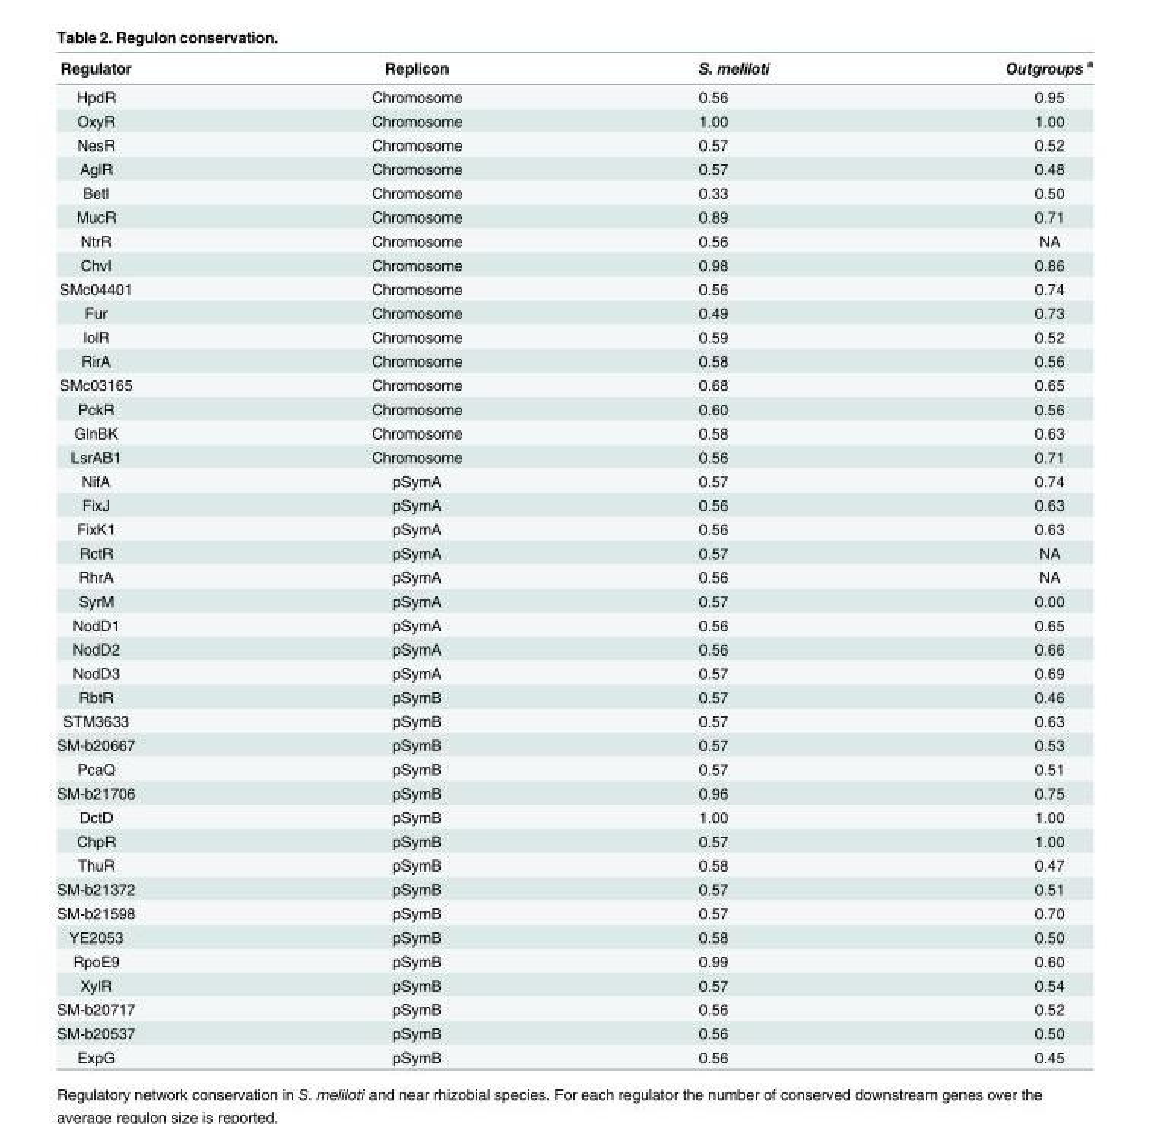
<table><thead><tr><td>Regulator</td><td>Replicon</td><td>S. meliloti</td><td>Outgroups <sup>a</sup></td></tr></thead><tbody><tr><td>HpdR</td><td>Chromosome</td><td>0.56</td><td>0.95</td></tr><tr><td>OxyR</td><td>Chromosome</td><td>1.00</td><td>1.00</td></tr><tr><td>NesR</td><td>Chromosome</td><td>0.57</td><td>0.52</td></tr><tr><td>AglR</td><td>Chromosome</td><td>0.57</td><td>0.48</td></tr><tr><td>BetI</td><td>Chromosome</td><td>0.33</td><td>0.50</td></tr><tr><td>MucR</td><td>Chromosome</td><td>0.89</td><td>0.71</td></tr><tr><td>NtrR</td><td>Chromosome</td><td>0.56</td><td>NA</td></tr><tr><td>ChvI</td><td>Chromosome</td><td>0.98</td><td>0.86</td></tr><tr><td>SMc04401</td><td>Chromosome</td><td>0.56</td><td>0.74</td></tr><tr><td>Fur</td><td>Chromosome</td><td>0.49</td><td>0.73</td></tr><tr><td>IolR</td><td>Chromosome</td><td>0.59</td><td>0.52</td></tr><tr><td>RirA</td><td>Chromosome</td><td>0.58</td><td>0.56</td></tr><tr><td>SMc03165</td><td>Chromosome</td><td>0.68</td><td>0.65</td></tr><tr><td>PckR</td><td>Chromosome</td><td>0.60</td><td>0.56</td></tr><tr><td>GlnBK</td><td>Chromosome</td><td>0.58</td><td>0.63</td></tr><tr><td>LsrAB1</td><td>Chromosome</td><td>0.56</td><td>0.71</td></tr><tr><td>NifA</td><td>pSymA</td><td>0.57</td><td>0.74</td></tr><tr><td>FixJ</td><td>pSymA</td><td>0.56</td><td>0.63</td></tr><tr><td>FixK1</td><td>pSymA</td><td>0.56</td><td>0.63</td></tr><tr><td>RctR</td><td>pSymA</td><td>0.57</td><td>NA</td></tr><tr><td>RhrA</td><td>pSymA</td><td>0.56</td><td>NA</td></tr><tr><td>SyrM</td><td>pSymA</td><td>0.57</td><td>0.00</td></tr><tr><td>NodD1</td><td>pSymA</td><td>0.56</td><td>0.65</td></tr><tr><td>NodD2</td><td>pSymA</td><td>0.56</td><td>0.66</td></tr><tr><td>NodD3</td><td>pSymA</td><td>0.57</td><td>0.69</td></tr><tr><td>RbtR</td><td>pSymB</td><td>0.57</td><td>0.46</td></tr><tr><td>STM3633</td><td>pSymB</td><td>0.57</td><td>0.63</td></tr><tr><td>SM-b20667</td><td>pSymB</td><td>0.57</td><td>0.53</td></tr><tr><td>PcaQ</td><td>pSymB</td><td>0.57</td><td>0.51</td></tr><tr><td>SM-b21706</td><td>pSymB</td><td>0.96</td><td>0.75</td></tr><tr><td>DctD</td><td>pSymB</td><td>1.00</td><td>1.00</td></tr><tr><td>ChpR</td><td>pSymB</td><td>0.57</td><td>1.00</td></tr><tr><td>ThuR</td><td>pSymB</td><td>0.58</td><td>0.47</td></tr><tr><td>SM-b21372</td><td>pSymB</td><td>0.57</td><td>0.51</td></tr><tr><td>SM-b21598</td><td>pSymB</td><td>0.57</td><td>0.70</td></tr><tr><td>YE2053</td><td>pSymB</td><td>0.58</td><td>0.50</td></tr><tr><td>RpoE9</td><td>pSymB</td><td>0.99</td><td>0.60</td></tr><tr><td>XylR</td><td>pSymB</td><td>0.57</td><td>0.54</td></tr><tr><td>SM-b20717</td><td>pSymB</td><td>0.56</td><td>0.52</td></tr><tr><td>SM-b20537</td><td>pSymB</td><td>0.56</td><td>0.50</td></tr><tr><td>ExpG</td><td>pSymB</td><td>0.56</td><td>0.45</td></tr></tbody></table>